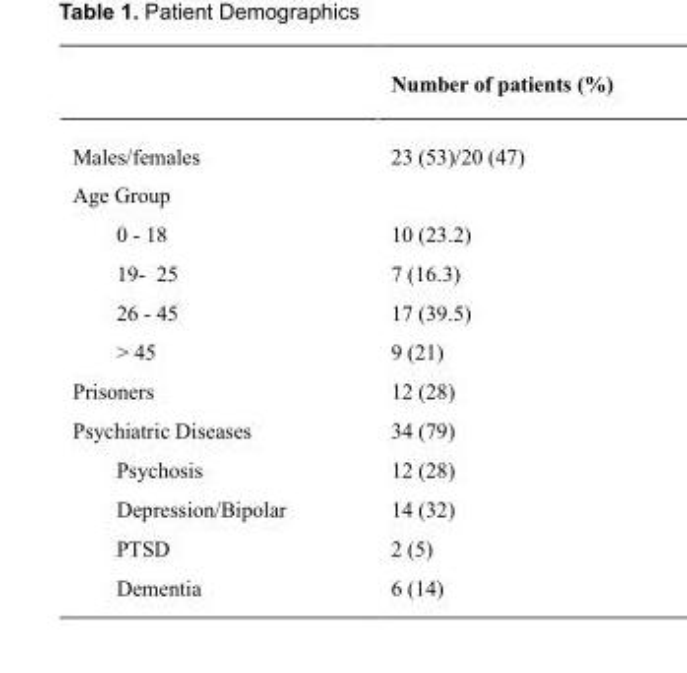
<table><thead><tr><td></td><td>Number of patients (%)</td></tr></thead><tbody><tr><td>Males/females</td><td>23 (53)/20 (47)</td></tr><tr><td colspan="2">Age Group</td></tr><tr><td>0 - 18</td><td>10 (23.2)</td></tr><tr><td>19- 25</td><td>7 (16.3)</td></tr><tr><td>26 - 45</td><td>17 (39.5)</td></tr><tr><td>&gt; 45</td><td>9 (21)</td></tr><tr><td>Prisoners</td><td>12 (28)</td></tr><tr><td>Psychiatric Diseases</td><td>34 (79)</td></tr><tr><td>Psychosis</td><td>12 (28)</td></tr><tr><td>Depression/Bipolar</td><td>14 (32)</td></tr><tr><td>PTSD</td><td>2 (5)</td></tr><tr><td>Dementia</td><td>6 (14)</td></tr></tbody></table>